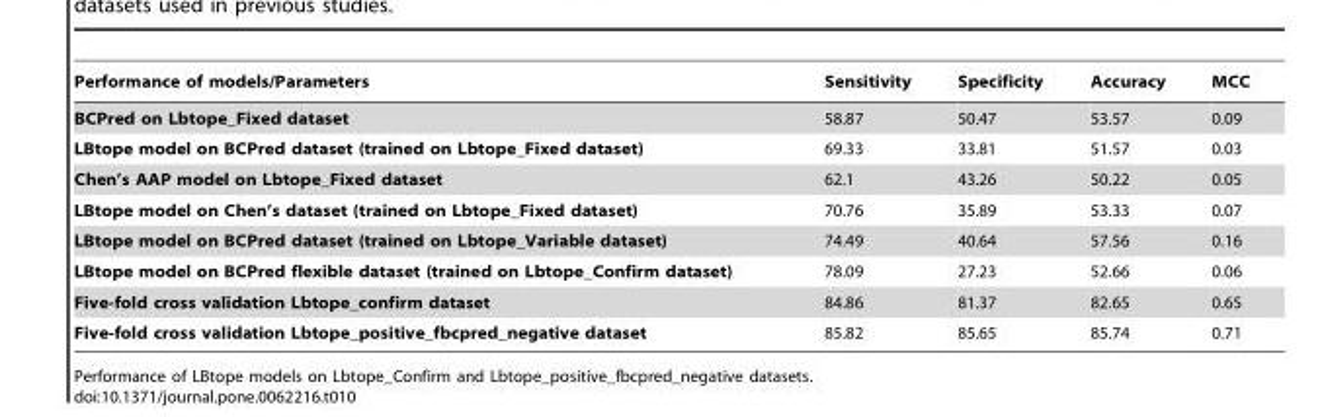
<table><thead><tr><td>Performance of models/Parameters</td><td>Sensitivity</td><td>Specificity</td><td>Accuracy</td><td>MCC</td></tr></thead><tbody><tr><td>BCPred on Lbtope_Fixed dataset</td><td>58.87</td><td>50.47</td><td>53.57</td><td>0.09</td></tr><tr><td>LBtope model on BCPred dataset (trained on Lbtope_Fixed dataset)</td><td>69.33</td><td>33.81</td><td>51.57</td><td>0.03</td></tr><tr><td>Chen’s AAP model on Lbtope_Fixed dataset</td><td>62.1</td><td>43.26</td><td>50.22</td><td>0.05</td></tr><tr><td>LBtope model on Chen’s dataset (trained on Lbtope_Fixed dataset)</td><td>70.76</td><td>35.89</td><td>53.33</td><td>0.07</td></tr><tr><td>LBtope model on BCPred dataset (trained on Lbtope_Variable dataset)</td><td>74.49</td><td>40.64</td><td>57.56</td><td>0.16</td></tr><tr><td>LBtope model on BCPred flexible dataset (trained on Lbtope_Confirm dataset)</td><td>78.09</td><td>27.23</td><td>52.66</td><td>0.06</td></tr><tr><td>Five-fold cross validation Lbtope_confirm dataset</td><td>84.86</td><td>81.37</td><td>82.65</td><td>0.65</td></tr><tr><td>Five-fold cross validation Lbtope_positive_fbcpred_negative dataset</td><td>85.82</td><td>85.65</td><td>85.74</td><td>0.71</td></tr></tbody></table>